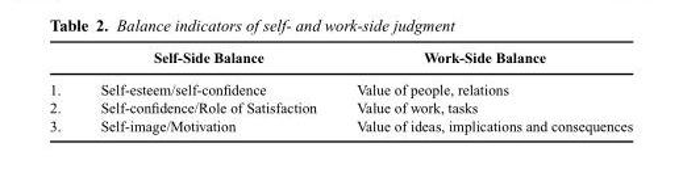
<table><thead><tr><td></td><td>Self-Side Balance</td><td>Work-Side Balance</td></tr></thead><tbody><tr><td>1.</td><td>Self-esteem/self-confidence</td><td>Value of people, relations</td></tr><tr><td>2.</td><td>Self-confidence/Role of Satisfaction</td><td>Value of work, tasks</td></tr><tr><td>3.</td><td>Self-image/Motivation</td><td>Value of ideas, implications and consequences</td></tr></tbody></table>